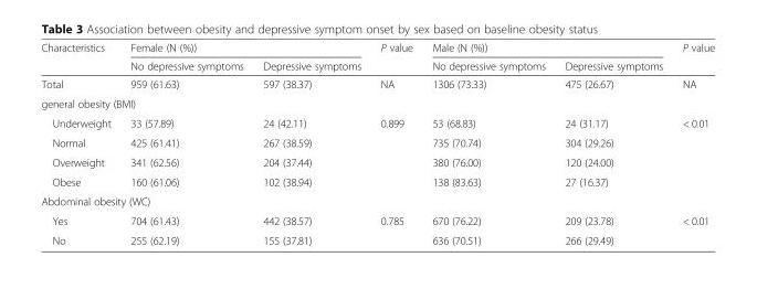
<table><thead><tr><td rowspan="2">Characteristics</td><td colspan="2">Female (N (%))</td><td rowspan="2">P value</td><td colspan="2">Male (N (%))</td><td rowspan="2">P value</td></tr><tr><td>No depressive symptoms</td><td>Depressive symptoms</td><td>No depressive symptoms</td><td>Depressive symptoms</td></tr></thead><tbody><tr><td>Total</td><td>959 (61.63)</td><td>597 (38.37)</td><td>NA</td><td>1306 (73.33)</td><td>475 (26.67)</td><td>NA</td></tr><tr><td colspan="7">general obesity (BMI)</td></tr><tr><td>Underweight</td><td>33 (57.89)</td><td>24 (42.11)</td><td>0.899</td><td>53 (68.83)</td><td>24 (31.17)</td><td>&lt; 0.01</td></tr><tr><td>Normal</td><td>425 (61.41)</td><td>267 (38.59)</td><td></td><td>735 (70.74)</td><td>304 (29.26)</td><td></td></tr><tr><td>Overweight</td><td>341 (62.56)</td><td>204 (37.44)</td><td></td><td>380 (76.00)</td><td>120 (24.00)</td><td></td></tr><tr><td>Obese</td><td>160 (61.06)</td><td>102 (38.94)</td><td></td><td>138 (83.63)</td><td>27 (16.37)</td><td></td></tr><tr><td colspan="7">Abdominal obesity (WC)</td></tr><tr><td>Yes</td><td>704 (61.43)</td><td>442 (38.57)</td><td>0.785</td><td>670 (76.22)</td><td>209 (23.78)</td><td>&lt; 0.01</td></tr><tr><td>No</td><td>255 (62.19)</td><td>155 (37.81)</td><td></td><td>636 (70.51)</td><td>266 (29.49)</td><td></td></tr></tbody></table>